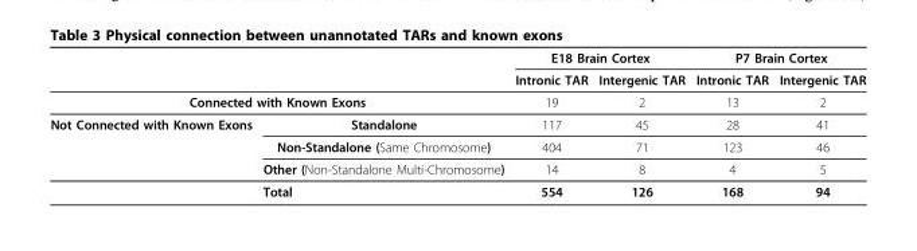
<table><thead><tr><td rowspan="2"></td><td rowspan="2"></td><td colspan="2">E18 Brain Cortex</td><td colspan="2">P7 Brain Cortex</td></tr><tr><td>Intronic TAR</td><td>Intergenic TAR</td><td>Intronic TAR</td><td>Intergenic TAR</td></tr></thead><tbody><tr><td colspan="2">Connected with Known Exons</td><td>19</td><td>2</td><td>13</td><td>2</td></tr><tr><td rowspan="3">Not Connected with Known Exons</td><td>Standalone</td><td>117</td><td>45</td><td>28</td><td>41</td></tr><tr><td>Non-Standalone (Same Chromosome)</td><td>404</td><td>71</td><td>123</td><td>46</td></tr><tr><td>Other (Non-Standalone Multi-Chromosome)</td><td>14</td><td>8</td><td>4</td><td>5</td></tr><tr><td colspan="2">Total</td><td>554</td><td>126</td><td>168</td><td>94</td></tr></tbody></table>